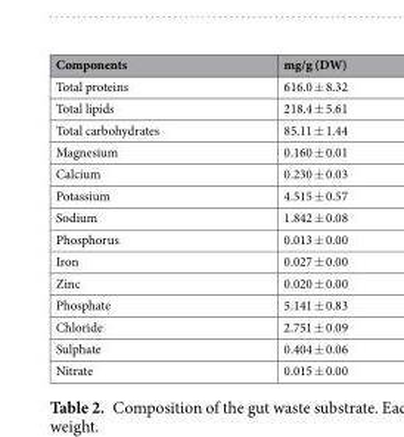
<table><thead><tr><td>Components</td><td>mg/g (DW)</td></tr></thead><tbody><tr><td>Total proteins</td><td>616.0 ± 8.32</td></tr><tr><td>Total lipids</td><td>218.4 ± 5.61</td></tr><tr><td>Total carbohydrates</td><td>85.11 ± 1.44</td></tr><tr><td>Magnesium</td><td>0.160 ± 0.01</td></tr><tr><td>Calcium</td><td>0.230 ± 0.03</td></tr><tr><td>Potassium</td><td>4.515 ± 0.57</td></tr><tr><td>Sodium</td><td>1.842 ± 0.08</td></tr><tr><td>Phosphorus</td><td>0.013 ± 0.00</td></tr><tr><td>Iron</td><td>0.027 ± 0.00</td></tr><tr><td>Zinc</td><td>0.020 ± 0.00</td></tr><tr><td>Phosphate</td><td>5.141 ± 0.83</td></tr><tr><td>Chloride</td><td>2.751 ± 0.09</td></tr><tr><td>Sulphate</td><td>0.404 ± 0.06</td></tr><tr><td>Nitrate</td><td>0.015 ± 0.00</td></tr></tbody></table>